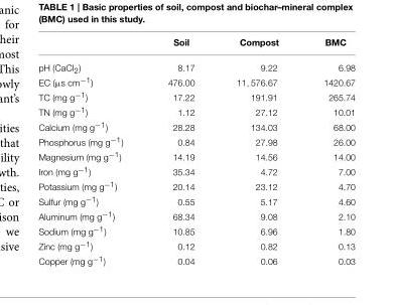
<table><thead><tr><td></td><td>Soil</td><td>Compost</td><td>BMC</td></tr></thead><tbody><tr><td>pH (CaCl<sub>2</sub>)</td><td>8.17</td><td>9.22</td><td>6.98</td></tr><tr><td>EC (µs cm<sup>−1</sup>)</td><td>476.00</td><td>11, 576.67</td><td>1420.67</td></tr><tr><td>TC (mg g<sup>−1</sup>)</td><td>17.22</td><td>191.91</td><td>265.74</td></tr><tr><td>TN (mg g<sup>−1</sup>)</td><td>1.12</td><td>27.12</td><td>10.01</td></tr><tr><td>Calcium (mg g<sup>−1</sup>)</td><td>28.28</td><td>134.03</td><td>68.00</td></tr><tr><td>Phosphorus (mg g<sup>−1</sup>)</td><td>0.84</td><td>27.98</td><td>26.00</td></tr><tr><td>Magnesium (mg g<sup>−1</sup>)</td><td>14.19</td><td>14.56</td><td>14.00</td></tr><tr><td>Iron (mg g<sup>−1</sup>)</td><td>35.34</td><td>4.72</td><td>7.00</td></tr><tr><td>Potassium (mg g<sup>−1</sup>)</td><td>20.14</td><td>23.12</td><td>4.70</td></tr><tr><td>Sulfur (mg g<sup>−1</sup>)</td><td>0.55</td><td>5.17</td><td>4.60</td></tr><tr><td>Aluminum (mg g<sup>−1</sup>)</td><td>68.34</td><td>9.08</td><td>2.10</td></tr><tr><td>Sodium (mg g<sup>−1</sup>)</td><td>10.85</td><td>6.96</td><td>1.80</td></tr><tr><td>Zinc (mg g<sup>−1</sup>)</td><td>0.12</td><td>0.82</td><td>0.13</td></tr><tr><td>Copper (mg g<sup>−1</sup>)</td><td>0.04</td><td>0.06</td><td>0.03</td></tr></tbody></table>